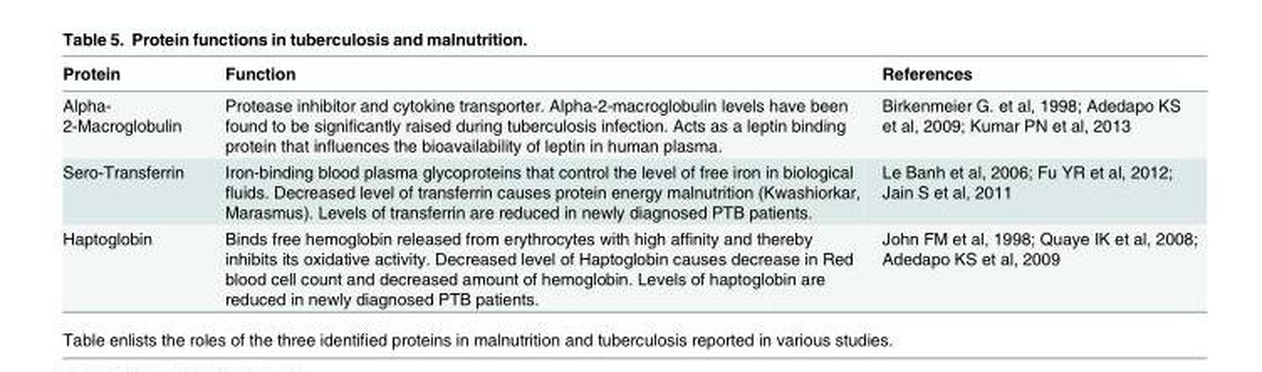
<table><thead><tr><td>Protein</td><td>Function</td><td>References</td></tr></thead><tbody><tr><td>Alpha- 2-Macroglobulin</td><td>Protease inhibitor and cytokine transporter. Alpha-2-macroglobulin levels have been found to be significantly raised during tuberculosis infection. Acts as a leptin binding protein that influences the bioavailability of leptin in human plasma.</td><td>Birkenmeier G. et al, 1998; Adedapo KS et al, 2009; Kumar PN et al, 2013</td></tr><tr><td>Sero-Transferrin</td><td>Iron-binding blood plasma glycoproteins that control the level of free iron in biological fluids. Decreased level of transferrin causes protein energy malnutrition (Kwashiorkar, Marasmus). Levels of transferrin are reduced in newly diagnosed PTB patients.</td><td>Le Banh et al, 2006; Fu YR et al, 2012; Jain S et al, 2011</td></tr><tr><td>Haptoglobin</td><td>Binds free hemoglobin released from erythrocytes with high affinity and thereby inhibits its oxidative activity. Decreased level of Haptoglobin causes decrease in Red blood cell count and decreased amount of hemoglobin. Levels of haptoglobin are reduced in newly diagnosed PTB patients.</td><td>John FM et al, 1998; Quaye IK et al, 2008; Adedapo KS et al, 2009</td></tr></tbody></table>